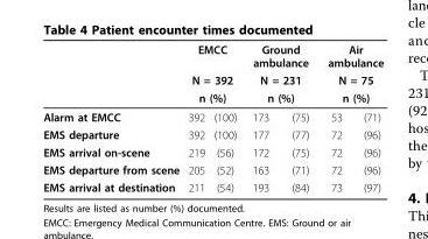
<table><thead><tr><td rowspan="4">Alarm at EMCC</td><td rowspan="3" colspan="2">EMCC N = 392 n (%)</td><td rowspan="3" colspan="2">Ground ambulance N = 231 n (%)</td><td rowspan="3" colspan="2">Air ambulance N = 75 n (%)</td></tr><tr></tr><tr></tr><tr><td>392</td><td>(100)</td><td>173</td><td>(75)</td><td>53</td><td>(71)</td></tr></thead><tbody><tr><td>EMS departure</td><td>392</td><td>(100)</td><td>177</td><td>(77)</td><td>72</td><td>(96)</td></tr><tr><td>EMS arrival on-scene</td><td>219</td><td>(56)</td><td>172</td><td>(75)</td><td>72</td><td>(96)</td></tr><tr><td>EMS departure from scene</td><td>205</td><td>(52)</td><td>163</td><td>(71)</td><td>72</td><td>(96)</td></tr><tr><td>EMS arrival at destination</td><td>211</td><td>(54)</td><td>193</td><td>(84)</td><td>73</td><td>(97)</td></tr></tbody></table>